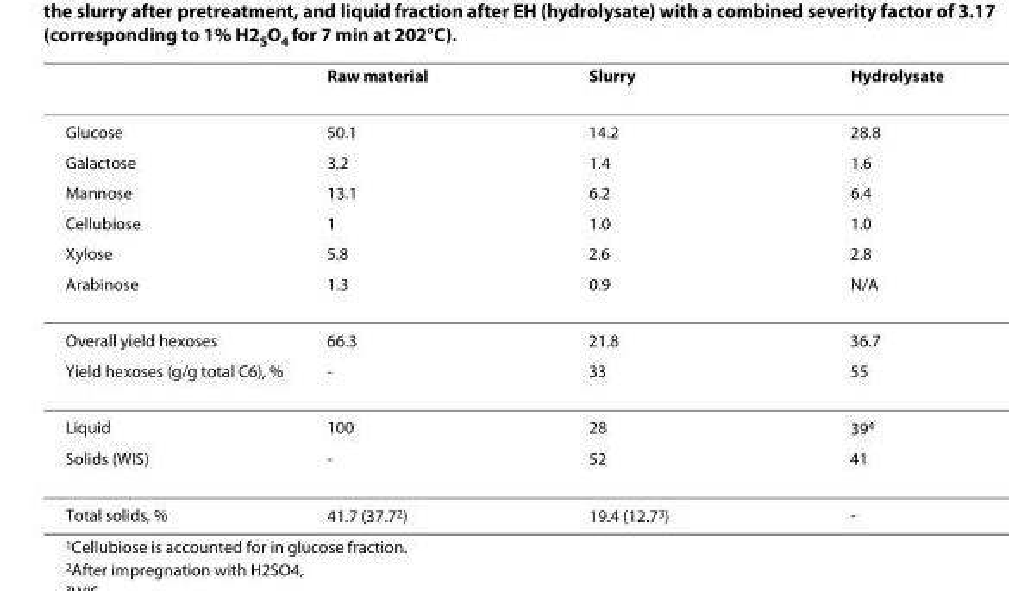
<table><thead><tr><td></td><td>Raw material</td><td>Slurry</td><td>Hydrolysate</td></tr></thead><tbody><tr><td>Glucose</td><td>50.1</td><td>14.2</td><td>28.8</td></tr><tr><td>Galactose</td><td>3.2</td><td>1.4</td><td>1.6</td></tr><tr><td>Mannose</td><td>13.1</td><td>6.2</td><td>6.4</td></tr><tr><td>Cellubiose</td><td>1</td><td>1.0</td><td>1.0</td></tr><tr><td>Xylose</td><td>5.8</td><td>2.6</td><td>2.8</td></tr><tr><td>Arabinose</td><td>1.3</td><td>0.9</td><td>N/A</td></tr><tr><td>Overall yield hexoses</td><td>66.3</td><td>21.8</td><td>36.7</td></tr><tr><td>Yield hexoses (g/g total C6), %</td><td>-</td><td>33</td><td>55</td></tr><tr><td>Liquid</td><td>100</td><td>28</td><td>39<sup>4</sup></td></tr><tr><td>Solids (WIS)</td><td>-</td><td>52</td><td>41</td></tr><tr><td>Total solids, %</td><td>41.7 (37.7<sup>2</sup>)</td><td>19.4 (12.7<sup>3</sup>)</td><td>-</td></tr></tbody></table>